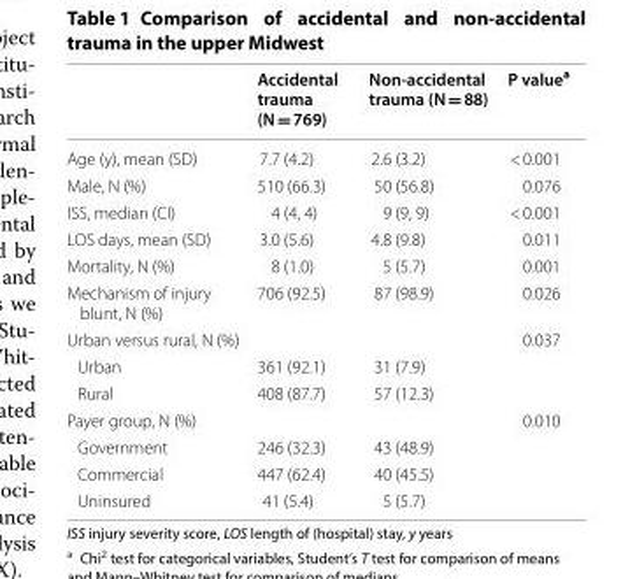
<table><thead><tr><td></td><td>Accidental trauma (N = 769)</td><td>Non-accidental trauma (N = 88)</td><td>P value<sup>a</sup></td></tr></thead><tbody><tr><td>Age (y), mean (SD)</td><td>7.7 (4.2)</td><td>2.6 (3.2)</td><td>&lt; 0.001</td></tr><tr><td>Male, N (%)</td><td>510 (66.3)</td><td>50 (56.8)</td><td>0.076</td></tr><tr><td>ISS, median (CI)</td><td>4 (4, 4)</td><td>9 (9, 9)</td><td>&lt; 0.001</td></tr><tr><td>LOS days, mean (SD)</td><td>3.0 (5.6)</td><td>4.8 (9.8)</td><td>0.011</td></tr><tr><td>Mortality, N (%)</td><td>8 (1.0)</td><td>5 (5.7)</td><td>0.001</td></tr><tr><td>Mechanism of injury blunt, N (%)</td><td>706 (92.5)</td><td>87 (98.9)</td><td>0.026</td></tr><tr><td>Urban versus rural, N (%)</td><td></td><td></td><td>0.037</td></tr><tr><td>Urban</td><td>361 (92.1)</td><td>31 (7.9)</td><td></td></tr><tr><td>Rural</td><td>408 (87.7)</td><td>57 (12.3)</td><td></td></tr><tr><td>Payer group, N (%)</td><td></td><td></td><td>0.010</td></tr><tr><td>Government</td><td>246 (32.3)</td><td>43 (48.9)</td><td></td></tr><tr><td>Commercial</td><td>447 (62.4)</td><td>40 (45.5)</td><td></td></tr><tr><td>Uninsured</td><td>41 (5.4)</td><td>5 (5.7)</td><td></td></tr></tbody></table>